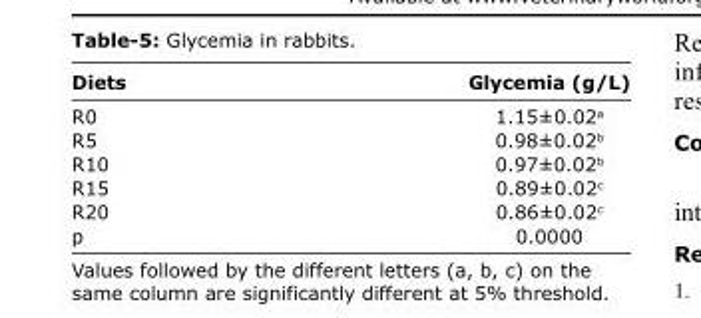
<table><thead><tr><td>Diets</td><td>Glycemia (g/L)</td></tr></thead><tbody><tr><td>R0</td><td>1.15±0.02<sup>a</sup></td></tr><tr><td>R5</td><td>0.98±0.02<sup>b</sup></td></tr><tr><td>R10</td><td>0.97±0.02<sup>b</sup></td></tr><tr><td>R15</td><td>0.89±0.02<sup>c</sup></td></tr><tr><td>R20</td><td>0.86±0.02<sup>c</sup></td></tr><tr><td>p</td><td>0.0000</td></tr></tbody></table>